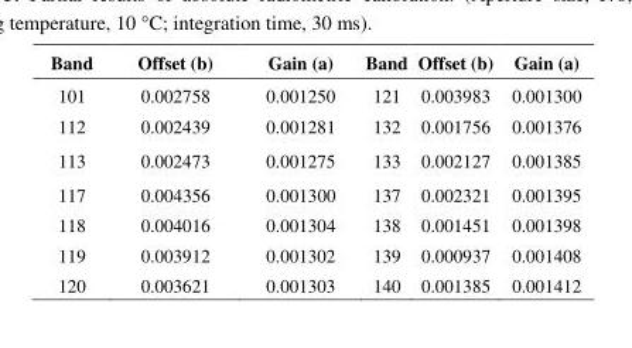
<table><thead><tr><td>Band</td><td>Offset (b)</td><td>Gain (a)</td><td>Band</td><td>Offset (b)</td><td>Gain (a)</td></tr></thead><tbody><tr><td>101</td><td>0.002758</td><td>0.001250</td><td>121</td><td>0.003983</td><td>0.001300</td></tr><tr><td>112</td><td>0.002439</td><td>0.001281</td><td>132</td><td>0.001756</td><td>0.001376</td></tr><tr><td>113</td><td>0.002473</td><td>0.001275</td><td>133</td><td>0.002127</td><td>0.001385</td></tr><tr><td>117</td><td>0.004356</td><td>0.001300</td><td>137</td><td>0.002321</td><td>0.001395</td></tr><tr><td>118</td><td>0.004016</td><td>0.001304</td><td>138</td><td>0.001451</td><td>0.001398</td></tr><tr><td>119</td><td>0.003912</td><td>0.001302</td><td>139</td><td>0.000937</td><td>0.001408</td></tr><tr><td>120</td><td>0.003621</td><td>0.001303</td><td>140</td><td>0.001385</td><td>0.001412</td></tr></tbody></table>